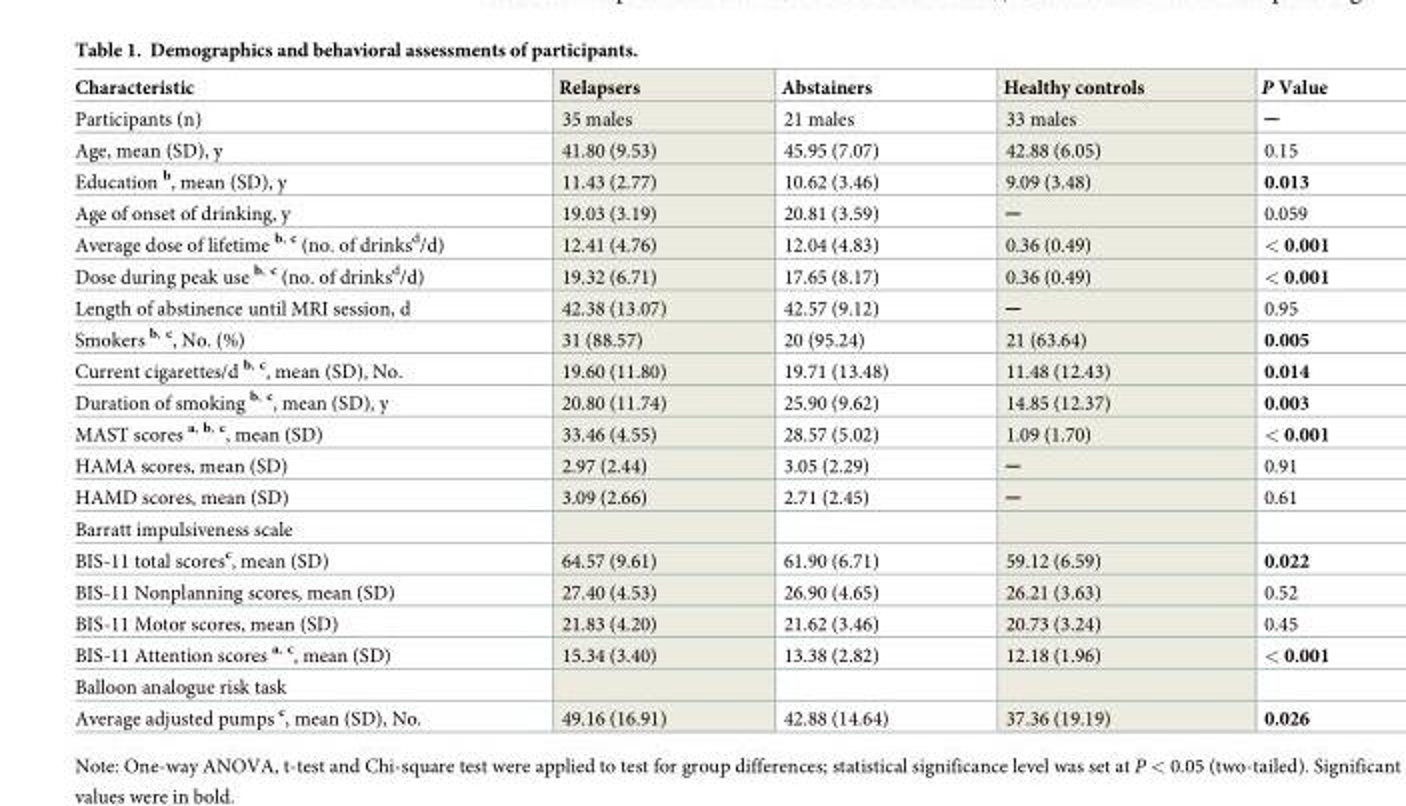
<table><thead><tr><td>Characteristic</td><td>Relapsers</td><td>Abstainers</td><td>Healthy controls</td><td>P Value</td></tr></thead><tbody><tr><td>Participants (n)</td><td>35 males</td><td>21 males</td><td>33 males</td><td>─</td></tr><tr><td>Age, mean (SD), y</td><td>41.80 (9.53)</td><td>45.95 (7.07)</td><td>42.88 (6.05)</td><td>0.15</td></tr><tr><td>Education <sup>b</sup>, mean (SD), y</td><td>11.43 (2.77)</td><td>10.62 (3.46)</td><td>9.09 (3.48)</td><td>0.013</td></tr><tr><td>Age of onset of drinking, y</td><td>19.03 (3.19)</td><td>20.81 (3.59)</td><td>─</td><td>0.059</td></tr><tr><td>Average dose of lifetime <sup>b, c</sup> (no. of drinks<sup>d</sup>/d)</td><td>12.41 (4.76)</td><td>12.04 (4.83)</td><td>0.36 (0.49)</td><td>&lt; 0.001</td></tr><tr><td>Dose during peak use <sup>b, c</sup> (no. of drinks<sup>d</sup>/d)</td><td>19.32 (6.71)</td><td>17.65 (8.17)</td><td>0.36 (0.49)</td><td>&lt; 0.001</td></tr><tr><td>Length of abstinence until MRI session, d</td><td>42.38 (13.07)</td><td>42.57 (9.12)</td><td>─</td><td>0.95</td></tr><tr><td>Smokers <sup>b, c</sup>, No. (%)</td><td>31 (88.57)</td><td>20 (95.24)</td><td>21 (63.64)</td><td>0.005</td></tr><tr><td>Current cigarettes/d <sup>b, c</sup>, mean (SD), No.</td><td>19.60 (11.80)</td><td>19.71 (13.48)</td><td>11.48 (12.43)</td><td>0.014</td></tr><tr><td>Duration of smoking <sup>b, c</sup>, mean (SD), y</td><td>20.80 (11.74)</td><td>25.90 (9.62)</td><td>14.85 (12.37)</td><td>0.003</td></tr><tr><td>MAST scores <sup>a, b, c</sup>, mean (SD)</td><td>33.46 (4.55)</td><td>28.57 (5.02)</td><td>1.09 (1.70)</td><td>&lt; 0.001</td></tr><tr><td>HAMA scores, mean (SD)</td><td>2.97 (2.44)</td><td>3.05 (2.29)</td><td>─</td><td>0.91</td></tr><tr><td>HAMD scores, mean (SD)</td><td>3.09 (2.66)</td><td>2.71 (2.45)</td><td>─</td><td>0.61</td></tr><tr><td colspan="5">Barratt impulsiveness scale</td></tr><tr><td>BIS-11 total scores<sup>c</sup>, mean (SD)</td><td>64.57 (9.61)</td><td>61.90 (6.71)</td><td>59.12 (6.59)</td><td>0.022</td></tr><tr><td>BIS-11 Nonplanning scores, mean (SD)</td><td>27.40 (4.53)</td><td>26.90 (4.65)</td><td>26.21 (3.63)</td><td>0.52</td></tr><tr><td>BIS-11 Motor scores, mean (SD)</td><td>21.83 (4.20)</td><td>21.62 (3.46)</td><td>20.73 (3.24)</td><td>0.45</td></tr><tr><td>BIS-11 Attention scores <sup>a, c</sup>, mean (SD)</td><td>15.34 (3.40)</td><td>13.38 (2.82)</td><td>12.18 (1.96)</td><td>&lt; 0.001</td></tr><tr><td colspan="5">Balloon analogue risk task</td></tr><tr><td>Average adjusted pumps <sup>c</sup>, mean (SD), No.</td><td>49.16 (16.91)</td><td>42.88 (14.64)</td><td>37.36 (19.19)</td><td>0.026</td></tr></tbody></table>